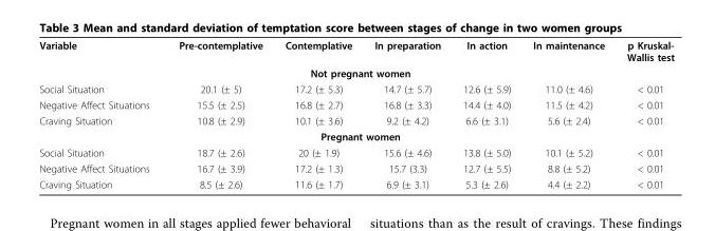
<table><tbody><tr><td>Variable</td><td>Pre-contemplative</td><td>Contemplative</td><td>In preparation</td><td>In action</td><td>In maintenance</td><td>p Kruskal- Wallis test</td></tr><tr><td colspan="7">Not pregnant women</td></tr><tr><td>Social Situation</td><td>20.1 (± 5)</td><td>17.2 (± 5.3)</td><td>14.7 (± 5.7)</td><td>12.6 (± 5.9)</td><td>11.0 (± 4.6)</td><td>&lt; 0.01</td></tr><tr><td>Negative Affect Situations</td><td>15.5 (± 2.5)</td><td>16.8 (± 2.7)</td><td>16.8 (± 3.3)</td><td>14.4 (± 4.0)</td><td>11.5 (± 4.2)</td><td>&lt; 0.01</td></tr><tr><td>Craving Situation</td><td>10.8 (± 2.9)</td><td>10.1 (± 3.6)</td><td>9.2 (± 4.2)</td><td>6.6 (± 3.1)</td><td>5.6 (± 2.4)</td><td>&lt; 0.01</td></tr><tr><td colspan="7">Pregnant women</td></tr><tr><td>Social Situation</td><td>18.7 (± 2.6)</td><td>20 (± 1.9)</td><td>15.6 (± 4.6)</td><td>13.8 (± 5.0)</td><td>10.1 (± 5.2)</td><td>&lt; 0.01</td></tr><tr><td>Negative Affect Situations</td><td>16.7 (± 3.9)</td><td>17.2 (± 1.3)</td><td>15.7 (3.3)</td><td>12.7 (± 5.5)</td><td>8.8 (± 5.2)</td><td>&lt; 0.01</td></tr><tr><td>Craving Situation</td><td>8.5 (± 2.6)</td><td>11.6 (± 1.7)</td><td>6.9 (± 3.1)</td><td>5.3 (± 2.6)</td><td>4.4 (± 2.2)</td><td>&lt; 0.01</td></tr></tbody></table>